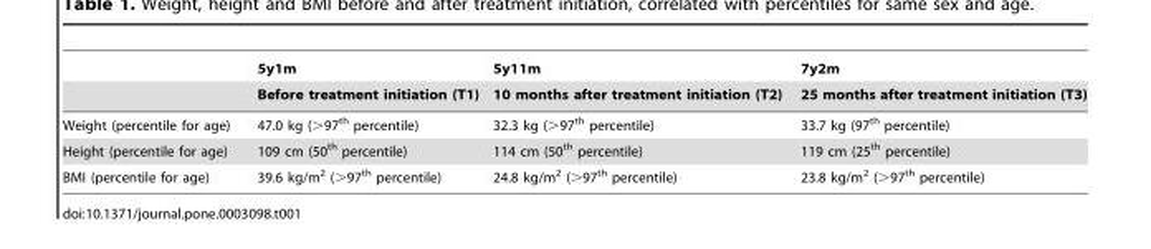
<table><thead><tr><td rowspan="2"></td><td rowspan="2">5y1m Before treatment initiation (T1)</td><td rowspan="2">5y11m 10 months after treatment initiation (T2)</td><td rowspan="2">7y2m 25 months after treatment initiation (T3)</td></tr><tr></tr></thead><tbody><tr><td>Weight (percentile for age)</td><td>47.0 kg (&gt;97<sup>th</sup> percentile)</td><td>32.3 kg (&gt;97<sup>th</sup> percentile)</td><td>33.7 kg (97<sup>th</sup> percentile)</td></tr><tr><td>Height (percentile for age)</td><td>109 cm (50<sup>th</sup> percentile)</td><td>114 cm (50<sup>th</sup> percentile)</td><td>119 cm (25<sup>th</sup> percentile)</td></tr><tr><td>BMI (percentile for age)</td><td>39.6 kg/m<sup>2</sup> (&gt;97<sup>th</sup> percentile)</td><td>24.8 kg/m<sup>2</sup> (&gt;97<sup>th</sup> percentile)</td><td>23.8 kg/m<sup>2</sup> (&gt;97<sup>th</sup> percentile)</td></tr></tbody></table>